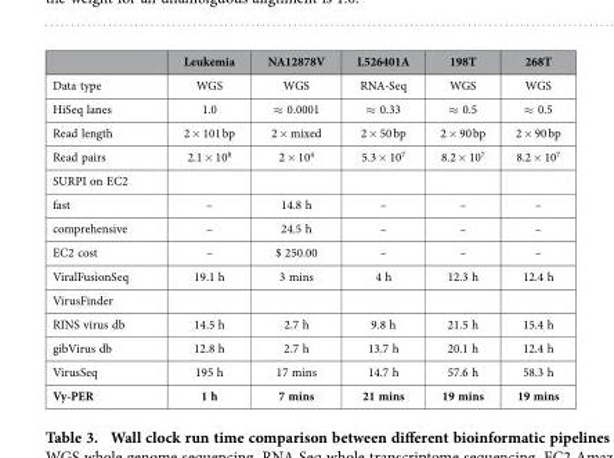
<table><thead><tr><td></td><td>Leukemia</td><td>NA12878V</td><td>L526401A</td><td>198T</td><td>268T</td></tr></thead><tbody><tr><td>Data type</td><td>WGS</td><td>WGS</td><td>RNA-Seq</td><td>WGS</td><td>WGS</td></tr><tr><td>HiSeq lanes</td><td>1.0</td><td>≈ 0.0001</td><td>≈ 0.33</td><td>≈ 0.5</td><td>≈ 0.5</td></tr><tr><td>Read length</td><td>2 × 101 bp</td><td>2 × mixed</td><td>2 × 50 bp</td><td>2 × 90 bp</td><td>2 × 90 bp</td></tr><tr><td>Read pairs</td><td>2.1 × 10<sup>8</sup></td><td>2 × 10<sup>4</sup></td><td>5.3 × 10<sup>7</sup></td><td>8.2 × 10<sup>7</sup></td><td>8.2 × 10<sup>7</sup></td></tr><tr><td colspan="6">SURPI on EC2</td></tr><tr><td>fast</td><td>–</td><td>14.8 h</td><td>–</td><td>–</td><td>–</td></tr><tr><td>comprehensive</td><td>–</td><td>24.5 h</td><td>–</td><td>–</td><td>–</td></tr><tr><td>EC2 cost</td><td>–</td><td>$ 250.00</td><td>–</td><td>–</td><td>–</td></tr><tr><td>ViralFusionSeq</td><td>19.1 h</td><td>3 mins</td><td>4 h</td><td>12.3 h</td><td>12.4 h</td></tr><tr><td colspan="6">VirusFinder</td></tr><tr><td>RINS virus db</td><td>14.5 h</td><td>2.7 h</td><td>9.8 h</td><td>21.5 h</td><td>15.4 h</td></tr><tr><td>gibVirus db</td><td>12.8 h</td><td>2.7 h</td><td>13.7 h</td><td>20.1 h</td><td>12.4 h</td></tr><tr><td>VirusSeq</td><td>195 h</td><td>17 mins</td><td>14.7 h</td><td>57.6 h</td><td>58.3 h</td></tr><tr><td>Vy-PER</td><td>1 h</td><td>7 mins</td><td>21 mins</td><td>19 mins</td><td>19 mins</td></tr></tbody></table>